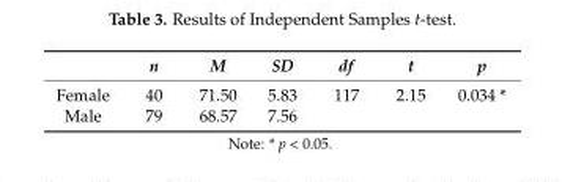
<table><thead><tr><td></td><td>n</td><td>M</td><td>SD</td><td>df</td><td>t</td><td>p</td></tr></thead><tbody><tr><td>Female</td><td>40</td><td>71.50</td><td>5.83</td><td>117</td><td>2.15</td><td>0.034 *</td></tr><tr><td>Male</td><td>79</td><td>68.57</td><td>7.56</td><td></td><td></td><td></td></tr></tbody></table>